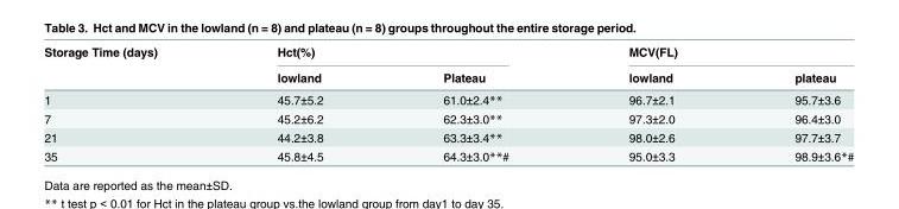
<table><thead><tr><td rowspan="2">Storage Time (days)</td><td colspan="2">Hct(%)</td><td colspan="2">MCV(FL)</td></tr><tr><td>lowland</td><td>Plateau</td><td>lowland</td><td>plateau</td></tr></thead><tbody><tr><td>1</td><td>45.7±5.2</td><td>61.0±2.4**</td><td>96.7±2.1</td><td>95.7±3.6</td></tr><tr><td>7</td><td>45.2±6.2</td><td>62.3±3.0**</td><td>97.3±2.0</td><td>96.4±3.0</td></tr><tr><td>21</td><td>44.2±3.8</td><td>63.3±3.4**</td><td>98.0±2.6</td><td>97.7±3.7</td></tr><tr><td>35</td><td>45.8±4.5</td><td>64.3±3.0**#</td><td>95.0±3.3</td><td>98.9±3.6*#</td></tr></tbody></table>